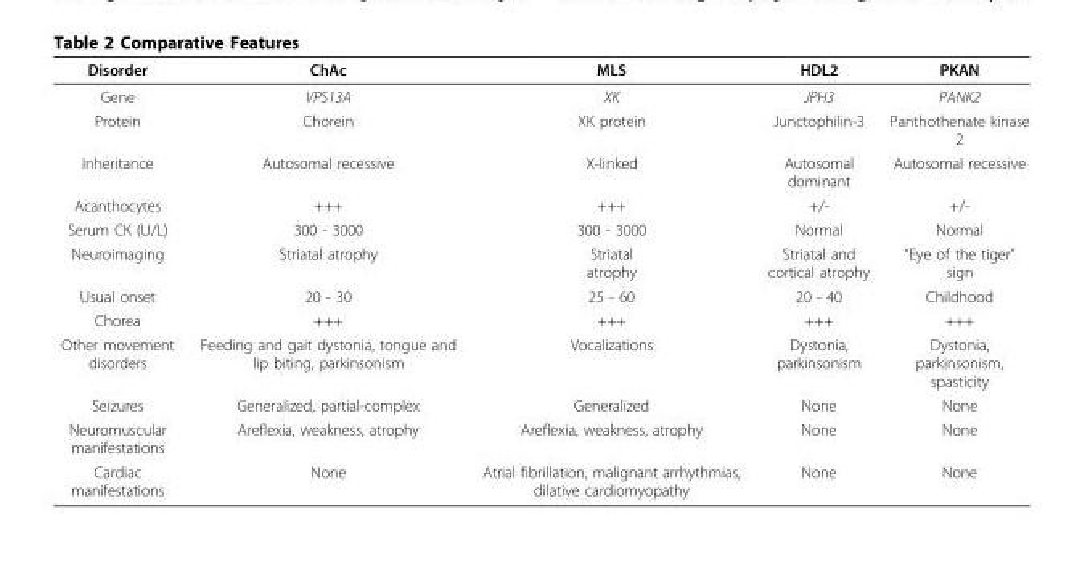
<table><thead><tr><td>Disorder</td><td>ChAc</td><td>MLS</td><td>HDL2</td><td>PKAN</td></tr></thead><tbody><tr><td>Gene</td><td>VPS13A</td><td>XK</td><td>JPH3</td><td>PANK2</td></tr><tr><td>Protein</td><td>Chorein</td><td>XK protein</td><td>Junctophilin-3</td><td>Panthothenate kinase 2</td></tr><tr><td>Inheritance</td><td>Autosomal recessive</td><td>X-linked</td><td>Autosomal dominant</td><td>Autosomal recessive</td></tr><tr><td>Acanthocytes</td><td>+++</td><td>+++</td><td>+/-</td><td>+/-</td></tr><tr><td>Serum CK (U/L)</td><td>300 - 3000</td><td>300 - 3000</td><td>Normal</td><td>Normal</td></tr><tr><td>Neuroimaging</td><td>Striatal atrophy</td><td>Striatal atrophy</td><td>Striatal and cortical atrophy</td><td>“Eye of the tiger” sign</td></tr><tr><td>Usual onset</td><td>20 - 30</td><td>25 - 60</td><td>20 - 40</td><td>Childhood</td></tr><tr><td>Chorea</td><td>+++</td><td>+++</td><td>+++</td><td>+++</td></tr><tr><td>Other movement disorders</td><td>Feeding and gait dystonia, tongue and lip biting, parkinsonism</td><td>Vocalizations</td><td>Dystonia, parkinsonism</td><td>Dystonia, parkinsonism, spasticity</td></tr><tr><td>Seizures</td><td>Generalized, partial-complex</td><td>Generalized</td><td>None</td><td>None</td></tr><tr><td>Neuromuscular manifestations</td><td>Areflexia, weakness, atrophy</td><td>Areflexia, weakness, atrophy</td><td>None</td><td>None</td></tr><tr><td>Cardiac manifestations</td><td>None</td><td>Atrial fibrillation, malignant arrhythmias, dilative cardiomyopathy</td><td>None</td><td>None</td></tr></tbody></table>